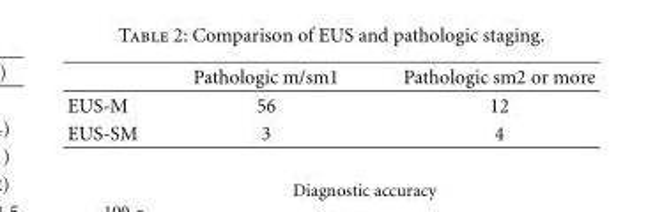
<table><thead><tr><td></td><td>Pathologic m/sm1</td><td>Pathologic sm2 or more</td></tr></thead><tbody><tr><td>EUS-M</td><td>56</td><td>12</td></tr><tr><td>EUS-SM</td><td>3</td><td>4</td></tr></tbody></table>